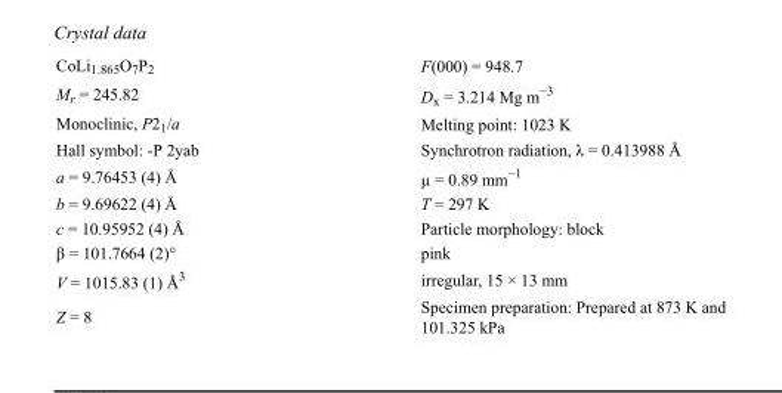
<table><tbody><tr><td>CoLi<sub>1.865</sub>O<sub>7</sub>P<sub>2</sub></td><td>F(000) = 948.7</td></tr><tr><td>M<sub>r</sub> = 245.82</td><td>D<sub>x</sub> = 3.214 Mg m<sup>−3</sup></td></tr><tr><td>Monoclinic, P2<sub>1</sub>/a</td><td>Melting point: 1023 K</td></tr><tr><td>Hall symbol: -P 2yab</td><td>Synchrotron radiation, λ = 0.413988 Å</td></tr><tr><td>a = 9.76453 (4) Å</td><td>µ = 0.89 mm<sup>−1</sup></td></tr><tr><td>b = 9.69622 (4) Å</td><td>T = 297 K</td></tr><tr><td>c = 10.95952 (4) Å</td><td>Particle morphology: block</td></tr><tr><td>β = 101.7664 (2)°</td><td>pink</td></tr><tr><td>V = 1015.83 (1) Å<sup>3</sup></td><td>irregular, 15 × 13 mm</td></tr><tr><td>Z = 8</td><td>Specimen preparation: Prepared at 873 K and 101.325 kPa</td></tr></tbody></table>